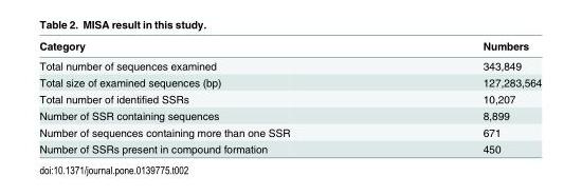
<table><thead><tr><td>Category</td><td>Numbers</td></tr></thead><tbody><tr><td>Total number of sequences examined</td><td>343,849</td></tr><tr><td>Total size of examined sequences (bp)</td><td>127,283,564</td></tr><tr><td>Total number of identified SSRs</td><td>10,207</td></tr><tr><td>Number of SSR containing sequences</td><td>8,899</td></tr><tr><td>Number of sequences containing more than one SSR</td><td>671</td></tr><tr><td>Number of SSRs present in compound formation</td><td>450</td></tr></tbody></table>